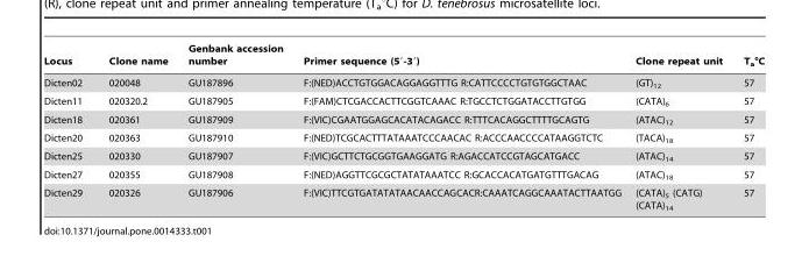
<table><thead><tr><td>Locus</td><td>Clone name</td><td>Genbank accession number</td><td>Primer sequence (5′-3′)</td><td>Clone repeat unit</td><td>T<sub>a</sub>°C</td></tr></thead><tbody><tr><td>Dicten02</td><td>020048</td><td>GU187896</td><td>F:(NED)ACCTGTGGACAGGAGGTTTG R:CATTCCCCTGTGTGGCTAAC</td><td>(GT)<sub>12</sub></td><td>57</td></tr><tr><td>Dicten11</td><td>020320.2</td><td>GU187905</td><td>F:(FAM)CTCGACCACTTCGGTCAAAC R:TGCCTCTGGATACCTTGTGG</td><td>(CATA)<sub>6</sub></td><td>57</td></tr><tr><td>Dicten18</td><td>020361</td><td>GU187909</td><td>F:(VIC)CGAATGGAGCACATACAGACC R:TTTCACAGGCTTTTGCAGTG</td><td>(ATAC)<sub>12</sub></td><td>57</td></tr><tr><td>Dicten20</td><td>020363</td><td>GU187910</td><td>F:(NED)TCGCACTTTATAAATCCCAACAC R:ACCCAACCCCATAAGGTCTC</td><td>(TACA)<sub>18</sub></td><td>57</td></tr><tr><td>Dicten25</td><td>020330</td><td>GU187907</td><td>F:(VIC)GCTTCTGCGGTGAAGGATG R:AGACCATCCGTAGCATGACC</td><td>(ATAC)<sub>14</sub></td><td>57</td></tr><tr><td>Dicten27</td><td>020355</td><td>GU187908</td><td>F:(NED)AGGTTCGCGCTATATAAATCC R:GCACCACATGATGTTTGACAG</td><td>(ATAC)<sub>18</sub></td><td>57</td></tr><tr><td>Dicten29</td><td>020326</td><td>GU187906</td><td>F:(VIC)TTCGTGATATATAACAACCAGCACR:CAAATCAGGCAAATACTTAATGG</td><td>(CATA)<sub>5</sub> (CATG) (CATA)<sub>14</sub></td><td>57</td></tr></tbody></table>